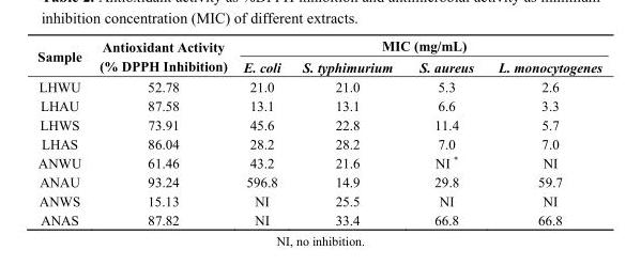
<table><thead><tr><td rowspan="2">Sample</td><td rowspan="2">Antioxidant Activity (% DPPH Inhibition)</td><td colspan="4">MIC (mg/mL)</td></tr><tr><td>E. coli</td><td>S. typhimurium</td><td>S. aureus</td><td>L. monocytogenes</td></tr></thead><tbody><tr><td>LHWU</td><td>52.78</td><td>21.0</td><td>21.0</td><td>5.3</td><td>2.6</td></tr><tr><td>LHAU</td><td>87.58</td><td>13.1</td><td>13.1</td><td>6.6</td><td>3.3</td></tr><tr><td>LHWS</td><td>73.91</td><td>45.6</td><td>22.8</td><td>11.4</td><td>5.7</td></tr><tr><td>LHAS</td><td>86.04</td><td>28.2</td><td>28.2</td><td>7.0</td><td>7.0</td></tr><tr><td>ANWU</td><td>61.46</td><td>43.2</td><td>21.6</td><td>NI *</td><td>NI</td></tr><tr><td>ANAU</td><td>93.24</td><td>596.8</td><td>14.9</td><td>29.8</td><td>59.7</td></tr><tr><td>ANWS</td><td>15.13</td><td>NI</td><td>25.5</td><td>NI</td><td>NI</td></tr><tr><td>ANAS</td><td>87.82</td><td>NI</td><td>33.4</td><td>66.8</td><td>66.8</td></tr></tbody></table>